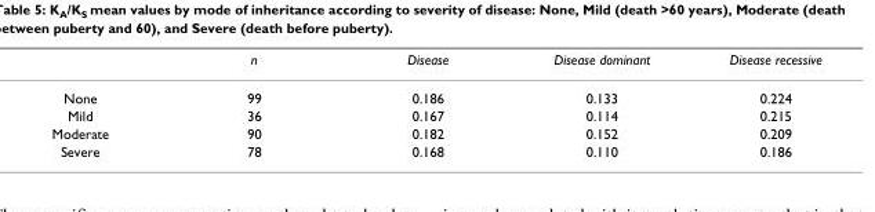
<table><thead><tr><td></td><td>n</td><td>Disease</td><td>Disease dominant</td><td>Disease recessive</td></tr></thead><tbody><tr><td>None</td><td>99</td><td>0.186</td><td>0.133</td><td>0.224</td></tr><tr><td>Mild</td><td>36</td><td>0.167</td><td>0.114</td><td>0.215</td></tr><tr><td>Moderate</td><td>90</td><td>0.182</td><td>0.152</td><td>0.209</td></tr><tr><td>Severe</td><td>78</td><td>0.168</td><td>0.110</td><td>0.186</td></tr></tbody></table>